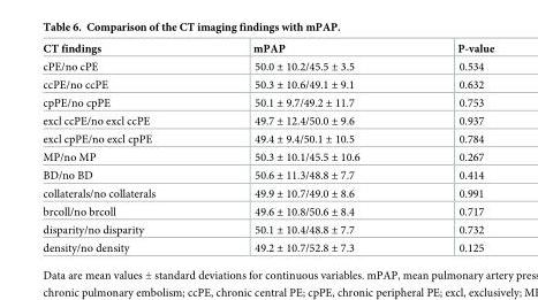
<table><thead><tr><td>CT findings</td><td>mPAP</td><td>P-value</td></tr></thead><tbody><tr><td>cPE/no cPE</td><td>50.0 ± 10.2/45.5 ± 3.5</td><td>0.534</td></tr><tr><td>ccPE/no ccPE</td><td>50.3 ± 10.6/49.1 ± 9.1</td><td>0.632</td></tr><tr><td>cpPE/no cpPE</td><td>50.1 ± 9.7/49.2 ± 11.7</td><td>0.753</td></tr><tr><td>excl ccPE/no excl ccPE</td><td>49.7 ± 12.4/50.0 ± 9.6</td><td>0.937</td></tr><tr><td>excl cpPE/no excl cpPE</td><td>49.4 ± 9.4/50.1 ± 10.5</td><td>0.784</td></tr><tr><td>MP/no MP</td><td>50.3 ± 10.1/45.5 ± 10.6</td><td>0.267</td></tr><tr><td>BD/no BD</td><td>50.6 ± 11.3/48.8 ± 7.7</td><td>0.414</td></tr><tr><td>collaterals/no collaterals</td><td>49.9 ± 10.7/49.0 ± 8.6</td><td>0.991</td></tr><tr><td>brcoll/no brcoll</td><td>49.6 ± 10.8/50.6 ± 8.4</td><td>0.717</td></tr><tr><td>disparity/no disparity</td><td>50.1 ± 10.4/48.8 ± 7.7</td><td>0.732</td></tr><tr><td>density/no density</td><td>49.2 ± 10.7/52.8 ± 7.3</td><td>0.125</td></tr></tbody></table>